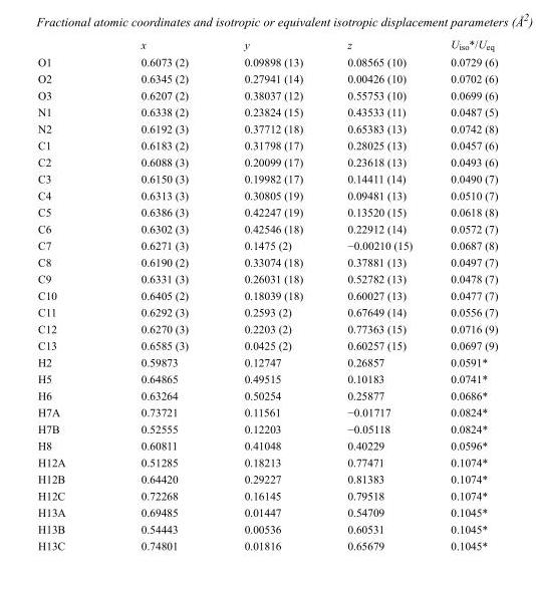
<table><thead><tr><td></td><td>x</td><td>y</td><td>z</td><td>U<sub>iso</sub>*/U<sub>eq</sub></td></tr></thead><tbody><tr><td>O1</td><td>0.6073 (2)</td><td>0.09898 (13)</td><td>0.08565 (10)</td><td>0.0729 (6)</td></tr><tr><td>O2</td><td>0.6345 (2)</td><td>0.27941 (14)</td><td>0.00426 (10)</td><td>0.0702 (6)</td></tr><tr><td>O3</td><td>0.6207 (2)</td><td>0.38037 (12)</td><td>0.55753 (10)</td><td>0.0699 (6)</td></tr><tr><td>N1</td><td>0.6338 (2)</td><td>0.23824 (15)</td><td>0.43533 (11)</td><td>0.0487 (5)</td></tr><tr><td>N2</td><td>0.6192 (3)</td><td>0.37712 (18)</td><td>0.65383 (13)</td><td>0.0742 (8)</td></tr><tr><td>C1</td><td>0.6183 (2)</td><td>0.31798 (17)</td><td>0.28025 (13)</td><td>0.0457 (6)</td></tr><tr><td>C2</td><td>0.6088 (3)</td><td>0.20099 (17)</td><td>0.23618 (13)</td><td>0.0493 (6)</td></tr><tr><td>C3</td><td>0.6150 (3)</td><td>0.19982 (17)</td><td>0.14411 (14)</td><td>0.0490 (7)</td></tr><tr><td>C4</td><td>0.6313 (3)</td><td>0.30805 (19)</td><td>0.09481 (13)</td><td>0.0510 (7)</td></tr><tr><td>C5</td><td>0.6386 (3)</td><td>0.42247 (19)</td><td>0.13520 (15)</td><td>0.0618 (8)</td></tr><tr><td>C6</td><td>0.6302 (3)</td><td>0.42546 (18)</td><td>0.22912 (14)</td><td>0.0572 (7)</td></tr><tr><td>C7</td><td>0.6271 (3)</td><td>0.1475 (2)</td><td>−0.00210 (15)</td><td>0.0687 (8)</td></tr><tr><td>C8</td><td>0.6190 (2)</td><td>0.33074 (18)</td><td>0.37881 (13)</td><td>0.0497 (7)</td></tr><tr><td>C9</td><td>0.6331 (3)</td><td>0.26031 (18)</td><td>0.52782 (13)</td><td>0.0478 (7)</td></tr><tr><td>C10</td><td>0.6405 (2)</td><td>0.18039 (18)</td><td>0.60027 (13)</td><td>0.0477 (7)</td></tr><tr><td>C11</td><td>0.6292 (3)</td><td>0.2593 (2)</td><td>0.67649 (14)</td><td>0.0556 (7)</td></tr><tr><td>C12</td><td>0.6270 (3)</td><td>0.2203 (2)</td><td>0.77363 (15)</td><td>0.0716 (9)</td></tr><tr><td>C13</td><td>0.6585 (3)</td><td>0.0425 (2)</td><td>0.60257 (15)</td><td>0.0697 (9)</td></tr><tr><td>H2</td><td>0.59873</td><td>0.12747</td><td>0.26857</td><td>0.0591*</td></tr><tr><td>H5</td><td>0.64865</td><td>0.49515</td><td>0.10183</td><td>0.0741*</td></tr><tr><td>H6</td><td>0.63264</td><td>0.50254</td><td>0.25877</td><td>0.0686*</td></tr><tr><td>H7A</td><td>0.73721</td><td>0.11561</td><td>−0.01717</td><td>0.0824*</td></tr><tr><td>H7B</td><td>0.52555</td><td>0.12203</td><td>−0.05118</td><td>0.0824*</td></tr><tr><td>H8</td><td>0.60811</td><td>0.41048</td><td>0.40229</td><td>0.0596*</td></tr><tr><td>H12A</td><td>0.51285</td><td>0.18213</td><td>0.77471</td><td>0.1074*</td></tr><tr><td>H12B</td><td>0.64420</td><td>0.29227</td><td>0.81383</td><td>0.1074*</td></tr><tr><td>H12C</td><td>0.72268</td><td>0.16145</td><td>0.79518</td><td>0.1074*</td></tr><tr><td>H13A</td><td>0.69485</td><td>0.01447</td><td>0.54709</td><td>0.1045*</td></tr><tr><td>H13B</td><td>0.54443</td><td>0.00536</td><td>0.60531</td><td>0.1045*</td></tr><tr><td>H13C</td><td>0.74801</td><td>0.01816</td><td>0.65679</td><td>0.1045*</td></tr></tbody></table>